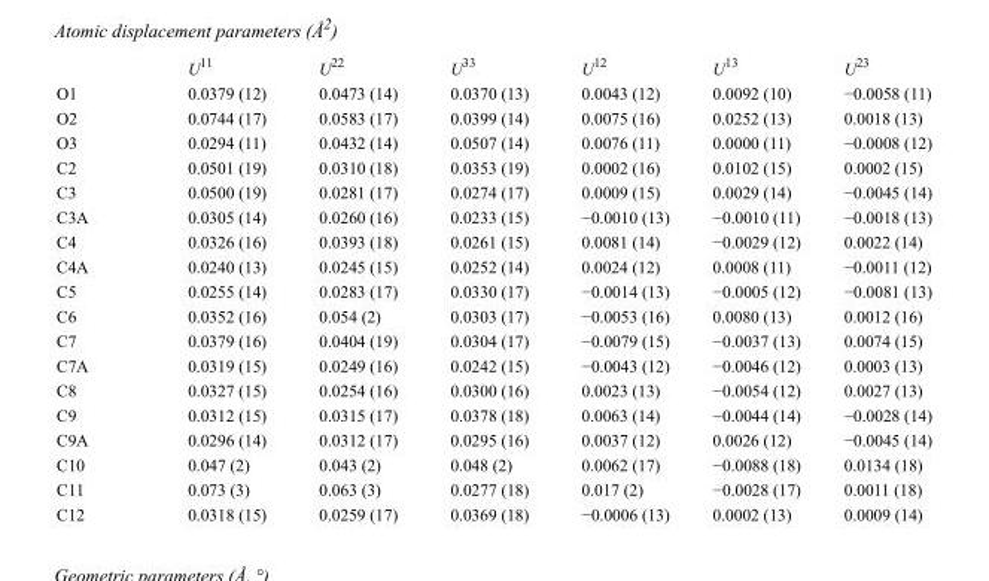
<table><thead><tr><td></td><td>U<sup>11</sup></td><td>U<sup>22</sup></td><td>U<sup>33</sup></td><td>U<sup>12</sup></td><td>U<sup>13</sup></td><td>U<sup>23</sup></td></tr></thead><tbody><tr><td>O1</td><td>0.0379 (12)</td><td>0.0473 (14)</td><td>0.0370 (13)</td><td>0.0043 (12)</td><td>0.0092 (10)</td><td>−0.0058 (11)</td></tr><tr><td>O2</td><td>0.0744 (17)</td><td>0.0583 (17)</td><td>0.0399 (14)</td><td>0.0075 (16)</td><td>0.0252 (13)</td><td>0.0018 (13)</td></tr><tr><td>O3</td><td>0.0294 (11)</td><td>0.0432 (14)</td><td>0.0507 (14)</td><td>0.0076 (11)</td><td>0.0000 (11)</td><td>−0.0008 (12)</td></tr><tr><td>C2</td><td>0.0501 (19)</td><td>0.0310 (18)</td><td>0.0353 (19)</td><td>0.0002 (16)</td><td>0.0102 (15)</td><td>0.0002 (15)</td></tr><tr><td>C3</td><td>0.0500 (19)</td><td>0.0281 (17)</td><td>0.0274 (17)</td><td>0.0009 (15)</td><td>0.0029 (14)</td><td>−0.0045 (14)</td></tr><tr><td>C3A</td><td>0.0305 (14)</td><td>0.0260 (16)</td><td>0.0233 (15)</td><td>−0.0010 (13)</td><td>−0.0010 (11)</td><td>−0.0018 (13)</td></tr><tr><td>C4</td><td>0.0326 (16)</td><td>0.0393 (18)</td><td>0.0261 (15)</td><td>0.0081 (14)</td><td>−0.0029 (12)</td><td>0.0022 (14)</td></tr><tr><td>C4A</td><td>0.0240 (13)</td><td>0.0245 (15)</td><td>0.0252 (14)</td><td>0.0024 (12)</td><td>0.0008 (11)</td><td>−0.0011 (12)</td></tr><tr><td>C5</td><td>0.0255 (14)</td><td>0.0283 (17)</td><td>0.0330 (17)</td><td>−0.0014 (13)</td><td>−0.0005 (12)</td><td>−0.0081 (13)</td></tr><tr><td>C6</td><td>0.0352 (16)</td><td>0.054 (2)</td><td>0.0303 (17)</td><td>−0.0053 (16)</td><td>0.0080 (13)</td><td>0.0012 (16)</td></tr><tr><td>C7</td><td>0.0379 (16)</td><td>0.0404 (19)</td><td>0.0304 (17)</td><td>−0.0079 (15)</td><td>−0.0037 (13)</td><td>0.0074 (15)</td></tr><tr><td>C7A</td><td>0.0319 (15)</td><td>0.0249 (16)</td><td>0.0242 (15)</td><td>−0.0043 (12)</td><td>−0.0046 (12)</td><td>0.0003 (13)</td></tr><tr><td>C8</td><td>0.0327 (15)</td><td>0.0254 (16)</td><td>0.0300 (16)</td><td>0.0023 (13)</td><td>−0.0054 (12)</td><td>0.0027 (13)</td></tr><tr><td>C9</td><td>0.0312 (15)</td><td>0.0315 (17)</td><td>0.0378 (18)</td><td>0.0063 (14)</td><td>−0.0044 (14)</td><td>−0.0028 (14)</td></tr><tr><td>C9A</td><td>0.0296 (14)</td><td>0.0312 (17)</td><td>0.0295 (16)</td><td>0.0037 (12)</td><td>0.0026 (12)</td><td>−0.0045 (14)</td></tr><tr><td>C10</td><td>0.047 (2)</td><td>0.043 (2)</td><td>0.048 (2)</td><td>0.0062 (17)</td><td>−0.0088 (18)</td><td>0.0134 (18)</td></tr><tr><td>C11</td><td>0.073 (3)</td><td>0.063 (3)</td><td>0.0277 (18)</td><td>0.017 (2)</td><td>−0.0028 (17)</td><td>0.0011 (18)</td></tr><tr><td>C12</td><td>0.0318 (15)</td><td>0.0259 (17)</td><td>0.0369 (18)</td><td>−0.0006 (13)</td><td>0.0002 (13)</td><td>0.0009 (14)</td></tr></tbody></table>